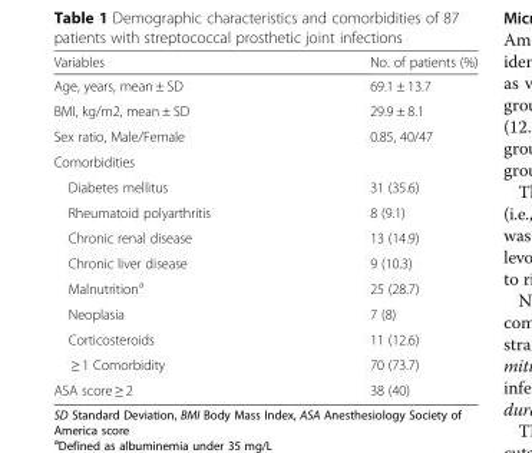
<table><thead><tr><td>Variables</td><td>No. of patients (%)</td></tr></thead><tbody><tr><td>Age, years, mean ± SD</td><td>69.1 ± 13.7</td></tr><tr><td>BMI, kg/m2, mean ± SD</td><td>29.9 ± 8.1</td></tr><tr><td>Sex ratio, Male/Female</td><td>0.85, 40/47</td></tr><tr><td colspan="2">Comorbidities</td></tr><tr><td>Diabetes mellitus</td><td>31 (35.6)</td></tr><tr><td>Rheumatoid polyarthritis</td><td>8 (9.1)</td></tr><tr><td>Chronic renal disease</td><td>13 (14.9)</td></tr><tr><td>Chronic liver disease</td><td>9 (10.3)</td></tr><tr><td>Malnutrition<sup>a</sup></td><td>25 (28.7)</td></tr><tr><td>Neoplasia</td><td>7 (8)</td></tr><tr><td>Corticosteroids</td><td>11 (12.6)</td></tr><tr><td>≥ 1 Comorbidity</td><td>70 (73.7)</td></tr><tr><td>ASA score ≥ 2</td><td>38 (40)</td></tr></tbody></table>